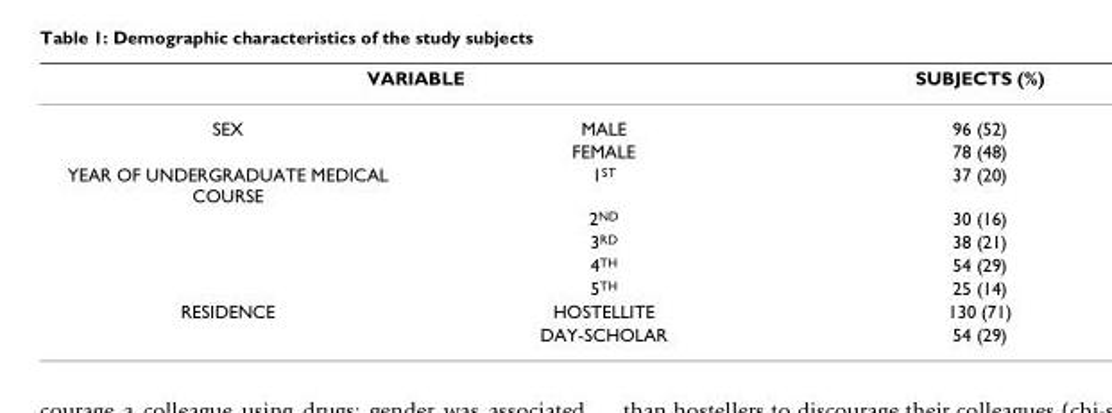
<table><thead><tr><td colspan="2">VARIABLE</td><td rowspan="2">SUBJECTS (%) 96 (52)</td></tr><tr><td>SEX</td><td>MALE</td></tr></thead><tbody><tr><td></td><td>FEMALE</td><td>78 (48)</td></tr><tr><td rowspan="5">YEAR OF UNDERGRADUATE MEDICAL COURSE</td><td>1<sup>ST</sup></td><td>37 (20)</td></tr><tr><td>2<sup>ND</sup></td><td>30 (16)</td></tr><tr><td>3<sup>RD</sup></td><td>38 (21)</td></tr><tr><td>4<sup>TH</sup></td><td>54 (29)</td></tr><tr><td>5<sup>TH</sup></td><td>25 (14)</td></tr><tr><td rowspan="2">RESIDENCE</td><td>HOSTELLITE</td><td>130 (71)</td></tr><tr><td>DAY-SCHOLAR</td><td>54 (29)</td></tr></tbody></table>